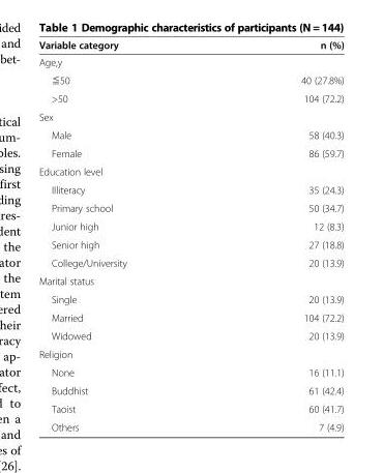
<table><thead><tr><td>Variable category</td><td>n (%)</td></tr></thead><tbody><tr><td colspan="2">Age,y</td></tr><tr><td>≦50</td><td>40 (27.8%)</td></tr><tr><td>&gt;50</td><td>104 (72.2)</td></tr><tr><td colspan="2">Sex</td></tr><tr><td>Male</td><td>58 (40.3)</td></tr><tr><td>Female</td><td>86 (59.7)</td></tr><tr><td colspan="2">Education level</td></tr><tr><td>Illiteracy</td><td>35 (24.3)</td></tr><tr><td>Primary school</td><td>50 (34.7)</td></tr><tr><td>Junior high</td><td>12 (8.3)</td></tr><tr><td>Senior high</td><td>27 (18.8)</td></tr><tr><td>College/University</td><td>20 (13.9)</td></tr><tr><td colspan="2">Marital status</td></tr><tr><td>Single</td><td>20 (13.9)</td></tr><tr><td>Married</td><td>104 (72.2)</td></tr><tr><td>Widowed</td><td>20 (13.9)</td></tr><tr><td colspan="2">Religion</td></tr><tr><td>None</td><td>16 (11.1)</td></tr><tr><td>Buddhist</td><td>61 (42.4)</td></tr><tr><td>Taoist</td><td>60 (41.7)</td></tr><tr><td>Others</td><td>7 (4.9)</td></tr></tbody></table>